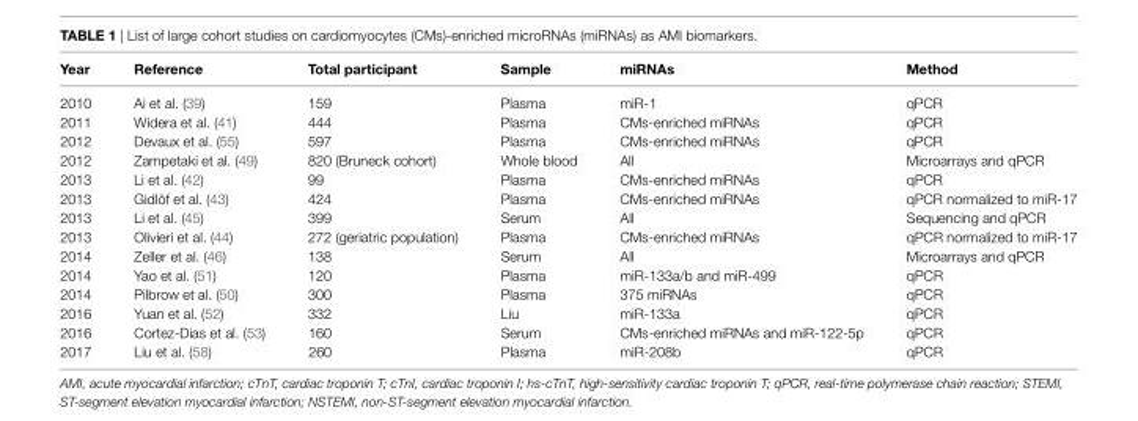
<table><thead><tr><td>Year</td><td>Reference</td><td>Total participant</td><td>Sample</td><td>miRNAs</td><td>Method</td></tr></thead><tbody><tr><td>2010</td><td>Ai et al. (39)</td><td>159</td><td>Plasma</td><td>miR-1</td><td>qPCR</td></tr><tr><td>2011</td><td>Widera et al. (41)</td><td>444</td><td>Plasma</td><td>CMs-enriched miRNAs</td><td>qPCR</td></tr><tr><td>2012</td><td>Devaux et al. (55)</td><td>597</td><td>Plasma</td><td>CMs-enriched miRNAs</td><td>qPCR</td></tr><tr><td>2012</td><td>Zampetaki et al. (49)</td><td>820 (Bruneck cohort)</td><td>Whole blood</td><td>All</td><td>Microarrays and qPCR</td></tr><tr><td>2013</td><td>Li et al. (42)</td><td>99</td><td>Plasma</td><td>CMs-enriched miRNAs</td><td>qPCR</td></tr><tr><td>2013</td><td>Gidlöf et al. (43)</td><td>424</td><td>Plasma</td><td>CMs-enriched miRNAs</td><td>qPCR normalized to miR-17</td></tr><tr><td>2013</td><td>Li et al. (45)</td><td>399</td><td>Serum</td><td>All</td><td>Sequencing and qPCR</td></tr><tr><td>2013</td><td>Olivieri et al. (44)</td><td>272 (geriatric population)</td><td>Plasma</td><td>CMs-enriched miRNAs</td><td>qPCR normalized to miR-17</td></tr><tr><td>2014</td><td>Zeller et al. (46)</td><td>138</td><td>Serum</td><td>All</td><td>Microarrays and qPCR</td></tr><tr><td>2014</td><td>Yao et al. (51)</td><td>120</td><td>Plasma</td><td>miR-133a/b and miR-499</td><td>qPCR</td></tr><tr><td>2014</td><td>Pilbrow et al. (50)</td><td>300</td><td>Plasma</td><td>375 miRNAs</td><td>qPCR</td></tr><tr><td>2016</td><td>Yuan et al. (52)</td><td>332</td><td>Liu</td><td>miR-133a</td><td>qPCR</td></tr><tr><td>2016</td><td>Cortez-Dias et al. (53)</td><td>160</td><td>Serum</td><td>CMs-enriched miRNAs and miR-122-5p</td><td>qPCR</td></tr><tr><td>2017</td><td>Liu et al. (58)</td><td>260</td><td>Plasma</td><td>miR-208b</td><td>qPCR</td></tr></tbody></table>